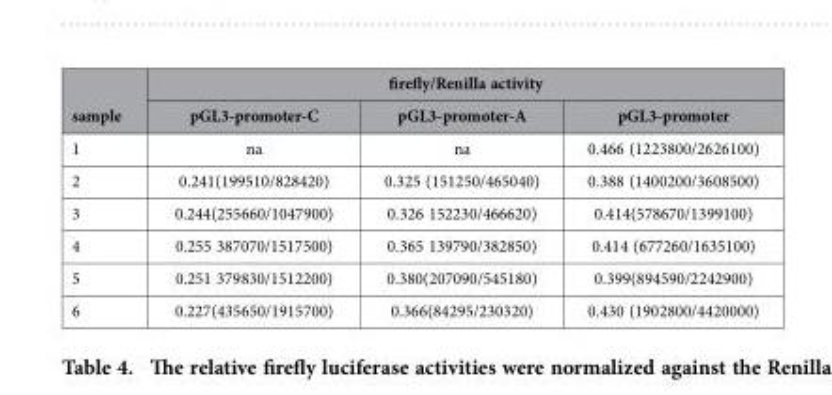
<table><thead><tr><td rowspan="2">sample</td><td colspan="3">firefly/Renilla activity</td></tr><tr><td>pGL3-promoter-C</td><td>pGL3-promoter-A</td><td>pGL3-promoter</td></tr></thead><tbody><tr><td>1</td><td>na</td><td>na</td><td>0.466 (1223800/2626100)</td></tr><tr><td>2</td><td>0.241(199510/828420)</td><td>0.325 (151250/465040)</td><td>0.388 (1400200/3608500)</td></tr><tr><td>3</td><td>0.244(255660/1047900)</td><td>0.326 152230/466620)</td><td>0.414(578670/1399100)</td></tr><tr><td>4</td><td>0.255 387070/1517500)</td><td>0.365 139790/382850)</td><td>0.414 (677260/1635100)</td></tr><tr><td>5</td><td>0.251 379830/1512200)</td><td>0.380(207090/545180)</td><td>0.399(894590/2242900)</td></tr><tr><td>6</td><td>0.227(435650/1915700)</td><td>0.366(84295/230320)</td><td>0.430 (1902800/4420000)</td></tr></tbody></table>